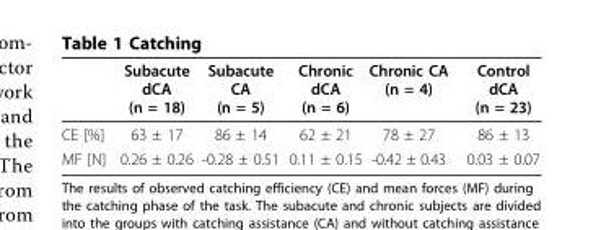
<table><thead><tr><td></td><td>Subacute dCA (n = 18)</td><td>Subacute CA (n = 5)</td><td>Chronic dCA (n = 6)</td><td>Chronic CA (n = 4)</td><td>Control dCA (n = 23)</td></tr></thead><tbody><tr><td>CE [%]</td><td>63 ± 17</td><td>86 ± 14</td><td>62 ± 21</td><td>78 ± 27</td><td>86 ± 13</td></tr><tr><td>MF [N]</td><td>0.26 ± 0.26</td><td>-0.28 ± 0.51</td><td>0.11 ± 0.15</td><td>-0.42 ± 0.43</td><td>0.03 ± 0.07</td></tr></tbody></table>